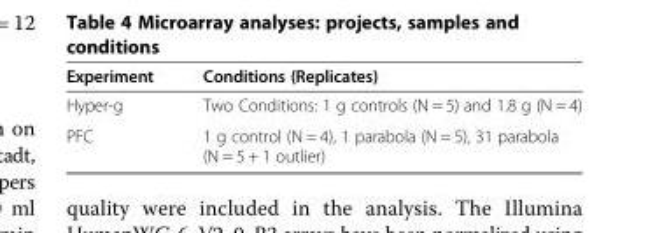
<table><thead><tr><td>Experiment</td><td>Conditions (Replicates)</td></tr></thead><tbody><tr><td>Hyper-g</td><td>Two Conditions: 1 g controls (N = 5) and 1.8 g (N = 4)</td></tr><tr><td>PFC</td><td>1 g control (N = 4), 1 parabola (N = 5), 31 parabola (N = 5 + 1 outlier)</td></tr></tbody></table>